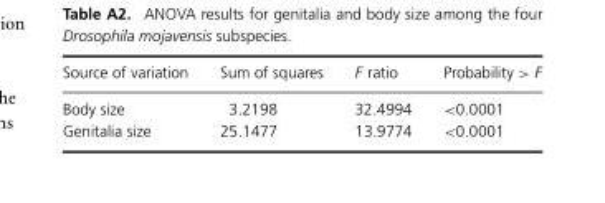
<table><thead><tr><td>Source of variation</td><td>Sum of squares</td><td>F ratio</td><td>Probability &gt; F</td></tr></thead><tbody><tr><td>Body size</td><td>3.2198</td><td>32.4994</td><td>&lt;0.0001</td></tr><tr><td>Genitalia size</td><td>25.1477</td><td>13.9774</td><td>&lt;0.0001</td></tr></tbody></table>